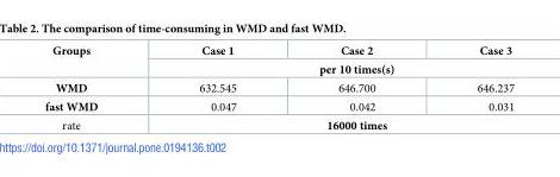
<table><thead><tr><td rowspan="2">Groups</td><td>Case 1</td><td>Case 2</td><td>Case 3</td></tr><tr><td colspan="3">per 10 times(s)</td></tr></thead><tbody><tr><td>WMD</td><td>632.545</td><td>646.700</td><td>646.237</td></tr><tr><td>fast WMD</td><td>0.047</td><td>0.042</td><td>0.031</td></tr><tr><td>rate</td><td colspan="3">16000 times</td></tr></tbody></table>